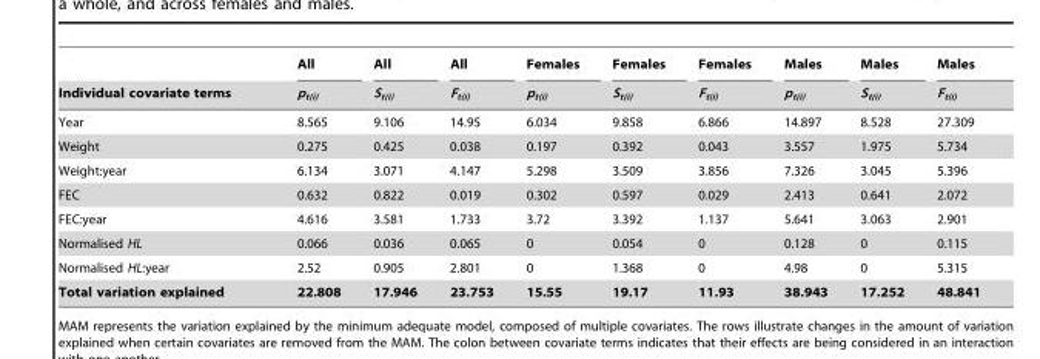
<table><thead><tr><td rowspan="2">Individual covariate terms</td><td rowspan="2">All p<sub>t(i)</sub></td><td rowspan="2">All S<sub>t(i)</sub></td><td rowspan="2">All F<sub>t(i)</sub></td><td rowspan="2">Females p<sub>t(i)</sub></td><td rowspan="2">Females S<sub>t(i)</sub></td><td rowspan="2">Females F<sub>t(i)</sub></td><td rowspan="2">Males p<sub>t(i)</sub></td><td rowspan="2">Males S<sub>t(i)</sub></td><td rowspan="2">Males F<sub>t(i)</sub></td></tr><tr></tr></thead><tbody><tr><td>Year</td><td>8.565</td><td>9.106</td><td>14.95</td><td>6.034</td><td>9.858</td><td>6.866</td><td>14.897</td><td>8.528</td><td>27.309</td></tr><tr><td>Weight</td><td>0.275</td><td>0.425</td><td>0.038</td><td>0.197</td><td>0.392</td><td>0.043</td><td>3.557</td><td>1.975</td><td>5.734</td></tr><tr><td>Weight:year</td><td>6.134</td><td>3.071</td><td>4.147</td><td>5.298</td><td>3.509</td><td>3.856</td><td>7.326</td><td>3.045</td><td>5.396</td></tr><tr><td>FEC</td><td>0.632</td><td>0.822</td><td>0.019</td><td>0.302</td><td>0.597</td><td>0.029</td><td>2.413</td><td>0.641</td><td>2.072</td></tr><tr><td>FEC:year</td><td>4.616</td><td>3.581</td><td>1.733</td><td>3.72</td><td>3.392</td><td>1.137</td><td>5.641</td><td>3.063</td><td>2.901</td></tr><tr><td>Normalised HL</td><td>0.066</td><td>0.036</td><td>0.065</td><td>0</td><td>0.054</td><td>0</td><td>0.128</td><td>0</td><td>0.115</td></tr><tr><td>Normalised HL:year</td><td>2.52</td><td>0.905</td><td>2.801</td><td>0</td><td>1.368</td><td>0</td><td>4.98</td><td>0</td><td>5.315</td></tr><tr><td>Total variation explained</td><td>22.808</td><td>17.946</td><td>23.753</td><td>15.55</td><td>19.17</td><td>11.93</td><td>38.943</td><td>17.252</td><td>48.841</td></tr></tbody></table>